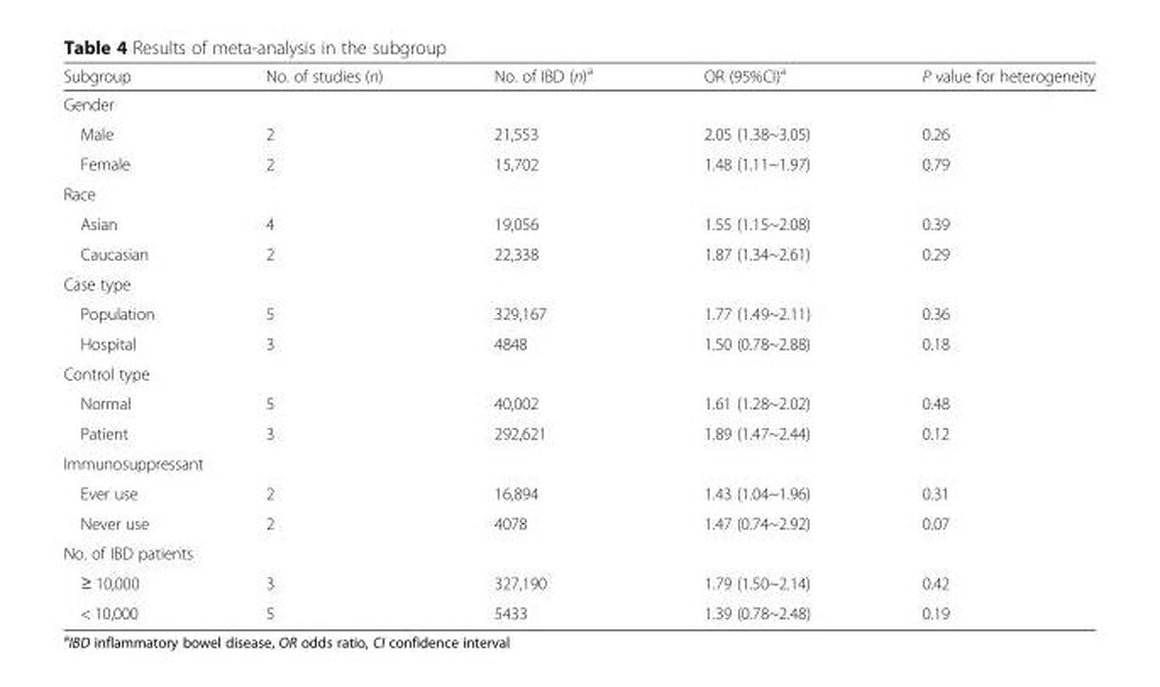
<table><thead><tr><td>Subgroup</td><td>No. of studies (n)</td><td>No. of IBD (n)<sup>a</sup></td><td>OR (95%CI)<sup>a</sup></td><td>P value for heterogeneity</td></tr></thead><tbody><tr><td colspan="5">Gender</td></tr><tr><td>Male</td><td>2</td><td>21,553</td><td>2.05 (1.38~3.05)</td><td>0.26</td></tr><tr><td>Female</td><td>2</td><td>15,702</td><td>1.48 (1.11~1.97)</td><td>0.79</td></tr><tr><td colspan="5">Race</td></tr><tr><td>Asian</td><td>4</td><td>19,056</td><td>1.55 (1.15~2.08)</td><td>0.39</td></tr><tr><td>Caucasian</td><td>2</td><td>22,338</td><td>1.87 (1.34~2.61)</td><td>0.29</td></tr><tr><td colspan="5">Case type</td></tr><tr><td>Population</td><td>5</td><td>329,167</td><td>1.77 (1.49~2.11)</td><td>0.36</td></tr><tr><td>Hospital</td><td>3</td><td>4848</td><td>1.50 (0.78~2.88)</td><td>0.18</td></tr><tr><td colspan="5">Control type</td></tr><tr><td>Normal</td><td>5</td><td>40,002</td><td>1.61 (1.28~2.02)</td><td>0.48</td></tr><tr><td>Patient</td><td>3</td><td>292,621</td><td>1.89 (1.47~2.44)</td><td>0.12</td></tr><tr><td colspan="5">Immunosuppressant</td></tr><tr><td>Ever use</td><td>2</td><td>16,894</td><td>1.43 (1.04~1.96)</td><td>0.31</td></tr><tr><td>Never use</td><td>2</td><td>4078</td><td>1.47 (0.74~2.92)</td><td>0.07</td></tr><tr><td colspan="5">No. of IBD patients</td></tr><tr><td>≥ 10,000</td><td>3</td><td>327,190</td><td>1.79 (1.50~2.14)</td><td>0.42</td></tr><tr><td>&lt; 10,000</td><td>5</td><td>5433</td><td>1.39 (0.78~2.48)</td><td>0.19</td></tr></tbody></table>